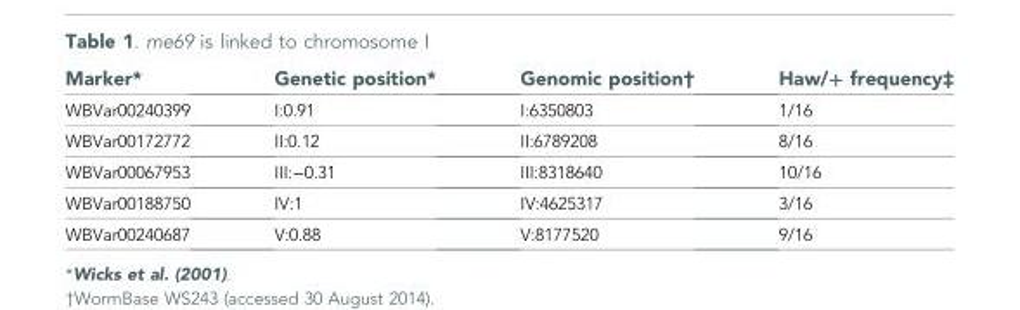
<table><thead><tr><td>Marker*</td><td>Genetic position*</td><td>Genomic position†</td><td>Haw/+ frequency‡</td></tr></thead><tbody><tr><td>WBVar00240399</td><td>I:0.91</td><td>I:6350803</td><td>1/16</td></tr><tr><td>WBVar00172772</td><td>II:0.12</td><td>II:6789208</td><td>8/16</td></tr><tr><td>WBVar00067953</td><td>III:−0.31</td><td>III:8318640</td><td>10/16</td></tr><tr><td>WBVar00188750</td><td>IV:1</td><td>IV:4625317</td><td>3/16</td></tr><tr><td>WBVar00240687</td><td>V:0.88</td><td>V:8177520</td><td>9/16</td></tr></tbody></table>